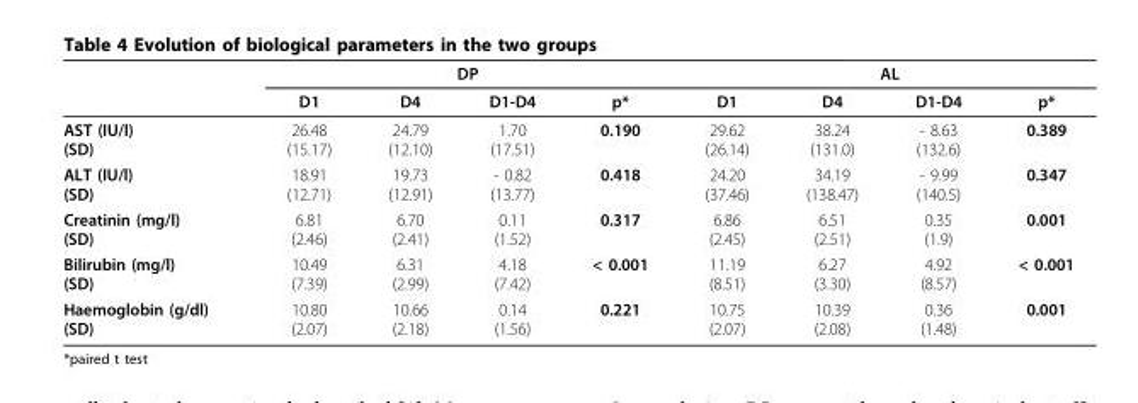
<table><thead><tr><td rowspan="2"></td><td colspan="4">DP</td><td colspan="4">AL</td></tr><tr><td>D1</td><td>D4</td><td>D1-D4</td><td>p*</td><td>D1</td><td>D4</td><td>D1-D4</td><td>p*</td></tr></thead><tbody><tr><td>AST (IU/l) (SD)</td><td>26.48 (15.17)</td><td>24.79 (12.10)</td><td>1.70 (17.51)</td><td>0.190</td><td>29.62 (26.14)</td><td>38.24 (131.0)</td><td>- 8.63 (132.6)</td><td>0.389</td></tr><tr><td>ALT (IU/l) (SD)</td><td>18.91 (12.71)</td><td>19.73 (12.91)</td><td>- 0.82 (13.77)</td><td>0.418</td><td>24.20 (37.46)</td><td>34.19 (138.47)</td><td>- 9.99 (140.5)</td><td>0.347</td></tr><tr><td>Creatinin (mg/l) (SD)</td><td>6.81 (2.46)</td><td>6.70 (2.41)</td><td>0.11 (1.52)</td><td>0.317</td><td>6.86 (2.45)</td><td>6.51 (2.51)</td><td>0.35 (1.9)</td><td>0.001</td></tr><tr><td>Bilirubin (mg/l) (SD)</td><td>10.49 (7.39)</td><td>6.31 (2.99)</td><td>4.18 (7.42)</td><td>&lt; 0.001</td><td>11.19 (8.51)</td><td>6.27 (3.30)</td><td>4.92 (8.57)</td><td>&lt; 0.001</td></tr><tr><td>Haemoglobin (g/dl) (SD)</td><td>10.80 (2.07)</td><td>10.66 (2.18)</td><td>0.14 (1.56)</td><td>0.221</td><td>10.75 (2.07)</td><td>10.39 (2.08)</td><td>0.36 (1.48)</td><td>0.001</td></tr></tbody></table>